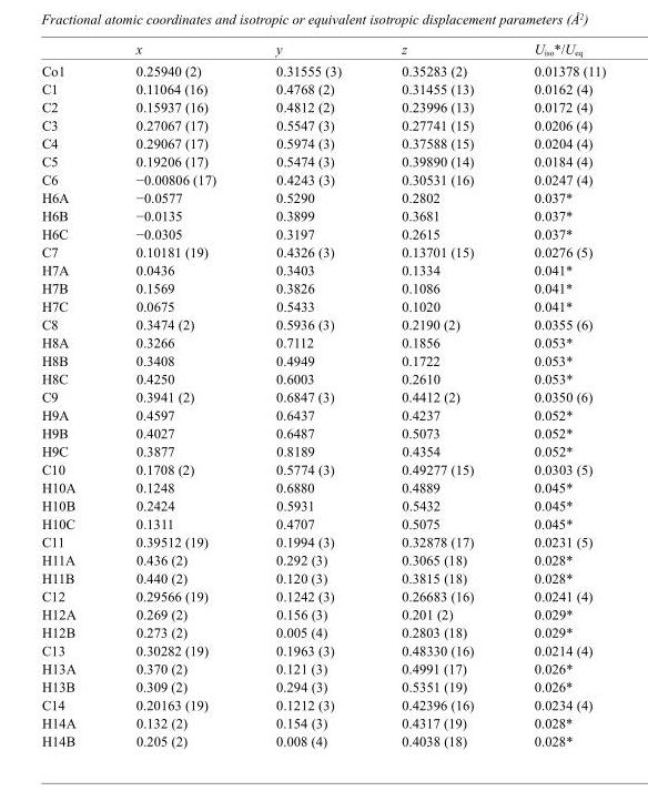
<table><thead><tr><td></td><td>x</td><td>y</td><td>z</td><td>U<sub>iso</sub>*/U<sub>eq</sub></td></tr></thead><tbody><tr><td>Co1</td><td>0.25940 (2)</td><td>0.31555 (3)</td><td>0.35283 (2)</td><td>0.01378 (11)</td></tr><tr><td>C1</td><td>0.11064 (16)</td><td>0.4768 (2)</td><td>0.31455 (13)</td><td>0.0162 (4)</td></tr><tr><td>C2</td><td>0.15937 (16)</td><td>0.4812 (2)</td><td>0.23996 (13)</td><td>0.0172 (4)</td></tr><tr><td>C3</td><td>0.27067 (17)</td><td>0.5547 (3)</td><td>0.27741 (15)</td><td>0.0206 (4)</td></tr><tr><td>C4</td><td>0.29067 (17)</td><td>0.5974 (3)</td><td>0.37588 (15)</td><td>0.0204 (4)</td></tr><tr><td>C5</td><td>0.19206 (17)</td><td>0.5474 (3)</td><td>0.39890 (14)</td><td>0.0184 (4)</td></tr><tr><td>C6</td><td>−0.00806 (17)</td><td>0.4243 (3)</td><td>0.30531 (16)</td><td>0.0247 (4)</td></tr><tr><td>H6A</td><td>−0.0577</td><td>0.5290</td><td>0.2802</td><td>0.037*</td></tr><tr><td>H6B</td><td>−0.0135</td><td>0.3899</td><td>0.3681</td><td>0.037*</td></tr><tr><td>H6C</td><td>−0.0305</td><td>0.3197</td><td>0.2615</td><td>0.037*</td></tr><tr><td>C7</td><td>0.10181 (19)</td><td>0.4326 (3)</td><td>0.13701 (15)</td><td>0.0276 (5)</td></tr><tr><td>H7A</td><td>0.0436</td><td>0.3403</td><td>0.1334</td><td>0.041*</td></tr><tr><td>H7B</td><td>0.1569</td><td>0.3826</td><td>0.1086</td><td>0.041*</td></tr><tr><td>H7C</td><td>0.0675</td><td>0.5433</td><td>0.1020</td><td>0.041*</td></tr><tr><td>C8</td><td>0.3474 (2)</td><td>0.5936 (3)</td><td>0.2190 (2)</td><td>0.0355 (6)</td></tr><tr><td>H8A</td><td>0.3266</td><td>0.7112</td><td>0.1856</td><td>0.053*</td></tr><tr><td>H8B</td><td>0.3408</td><td>0.4949</td><td>0.1722</td><td>0.053*</td></tr><tr><td>H8C</td><td>0.4250</td><td>0.6003</td><td>0.2610</td><td>0.053*</td></tr><tr><td>C9</td><td>0.3941 (2)</td><td>0.6847 (3)</td><td>0.4412 (2)</td><td>0.0350 (6)</td></tr><tr><td>H9A</td><td>0.4597</td><td>0.6437</td><td>0.4237</td><td>0.052*</td></tr><tr><td>H9B</td><td>0.4027</td><td>0.6487</td><td>0.5073</td><td>0.052*</td></tr><tr><td>H9C</td><td>0.3877</td><td>0.8189</td><td>0.4354</td><td>0.052*</td></tr><tr><td>C10</td><td>0.1708 (2)</td><td>0.5774 (3)</td><td>0.49277 (15)</td><td>0.0303 (5)</td></tr><tr><td>H10A</td><td>0.1248</td><td>0.6880</td><td>0.4889</td><td>0.045*</td></tr><tr><td>H10B</td><td>0.2424</td><td>0.5931</td><td>0.5432</td><td>0.045*</td></tr><tr><td>H10C</td><td>0.1311</td><td>0.4707</td><td>0.5075</td><td>0.045*</td></tr><tr><td>C11</td><td>0.39512 (19)</td><td>0.1994 (3)</td><td>0.32878 (17)</td><td>0.0231 (5)</td></tr><tr><td>H11A</td><td>0.436 (2)</td><td>0.292 (3)</td><td>0.3065 (18)</td><td>0.028*</td></tr><tr><td>H11B</td><td>0.440 (2)</td><td>0.120 (3)</td><td>0.3815 (18)</td><td>0.028*</td></tr><tr><td>C12</td><td>0.29566 (19)</td><td>0.1242 (3)</td><td>0.26683 (16)</td><td>0.0241 (4)</td></tr><tr><td>H12A</td><td>0.269 (2)</td><td>0.156 (3)</td><td>0.201 (2)</td><td>0.029*</td></tr><tr><td>H12B</td><td>0.273 (2)</td><td>0.005 (4)</td><td>0.2803 (18)</td><td>0.029*</td></tr><tr><td>C13</td><td>0.30282 (19)</td><td>0.1963 (3)</td><td>0.48330 (16)</td><td>0.0214 (4)</td></tr><tr><td>H13A</td><td>0.370 (2)</td><td>0.121 (3)</td><td>0.4991 (17)</td><td>0.026*</td></tr><tr><td>H13B</td><td>0.309 (2)</td><td>0.294 (3)</td><td>0.5351 (19)</td><td>0.026*</td></tr><tr><td>C14</td><td>0.20163 (19)</td><td>0.1212 (3)</td><td>0.42396 (16)</td><td>0.0234 (4)</td></tr><tr><td>H14A</td><td>0.132 (2)</td><td>0.154 (3)</td><td>0.4317 (19)</td><td>0.028*</td></tr><tr><td>H14B</td><td>0.205 (2)</td><td>0.008 (4)</td><td>0.4038 (18)</td><td>0.028*</td></tr></tbody></table>